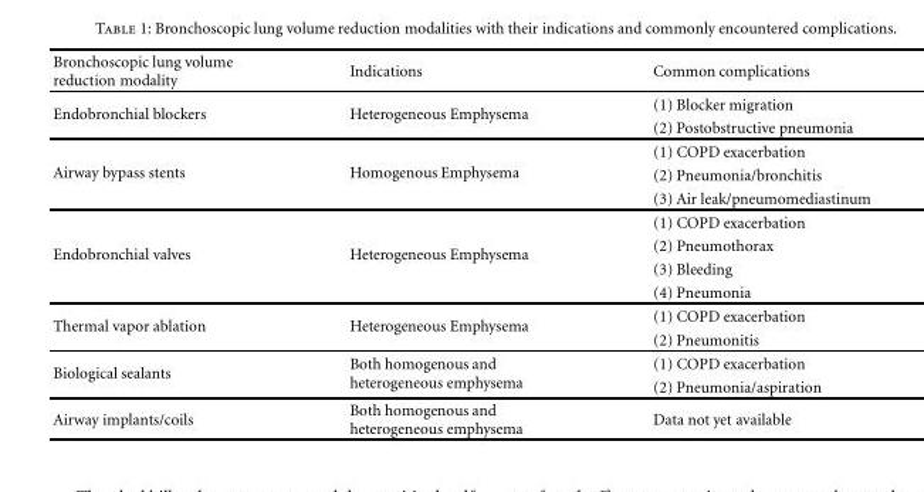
<table><thead><tr><td>Bronchoscopic lung volume reduction modality</td><td>Indications</td><td>Common complications</td></tr></thead><tbody><tr><td rowspan="2">Endobronchial blockers</td><td rowspan="2">Heterogeneous Emphysema</td><td>(1) Blocker migration</td></tr><tr><td>(2) Postobstructive pneumonia</td></tr><tr><td rowspan="3">Airway bypass stents</td><td rowspan="3">Homogenous Emphysema</td><td>(1) COPD exacerbation</td></tr><tr><td>(2) Pneumonia/bronchitis</td></tr><tr><td>(3) Air leak/pneumomediastinum</td></tr><tr><td rowspan="4">Endobronchial valves</td><td rowspan="4">Heterogeneous Emphysema</td><td>(1) COPD exacerbation</td></tr><tr><td>(2) Pneumothorax</td></tr><tr><td>(3) Bleeding</td></tr><tr><td>(4) Pneumonia</td></tr><tr><td rowspan="2">Thermal vapor ablation</td><td rowspan="2">Heterogeneous Emphysema</td><td>(1) COPD exacerbation</td></tr><tr><td>(2) Pneumonitis</td></tr><tr><td rowspan="2">Biological sealants</td><td rowspan="2">Both homogenous and heterogeneous emphysema</td><td>(1) COPD exacerbation</td></tr><tr><td>(2) Pneumonia/aspiration</td></tr><tr><td>Airway implants/coils</td><td>Both homogenous and heterogeneous emphysema</td><td>Data not yet available</td></tr></tbody></table>